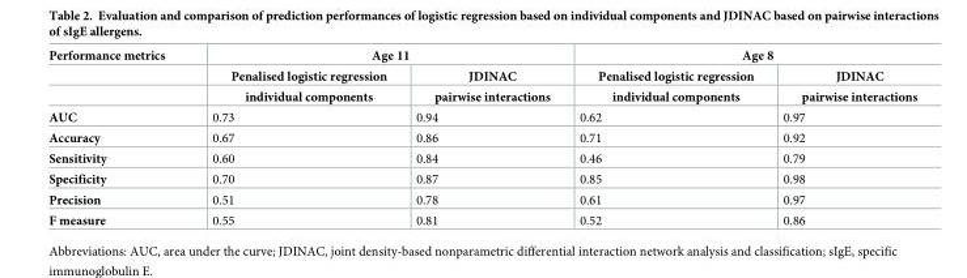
<table><thead><tr><td rowspan="3">Performance metrics</td><td colspan="2">Age 11</td><td colspan="2">Age 8</td></tr><tr><td rowspan="2">Penalised logistic regression individual components</td><td rowspan="2">JDINAC pairwise interactions</td><td rowspan="2">Penalised logistic regression individual components</td><td rowspan="2">JDINAC pairwise interactions</td></tr><tr></tr></thead><tbody><tr><td>AUC</td><td>0.73</td><td>0.94</td><td>0.62</td><td>0.97</td></tr><tr><td>Accuracy</td><td>0.67</td><td>0.86</td><td>0.71</td><td>0.92</td></tr><tr><td>Sensitivity</td><td>0.60</td><td>0.84</td><td>0.46</td><td>0.79</td></tr><tr><td>Specificity</td><td>0.70</td><td>0.87</td><td>0.85</td><td>0.98</td></tr><tr><td>Precision</td><td>0.51</td><td>0.78</td><td>0.61</td><td>0.97</td></tr><tr><td>F measure</td><td>0.55</td><td>0.81</td><td>0.52</td><td>0.86</td></tr></tbody></table>